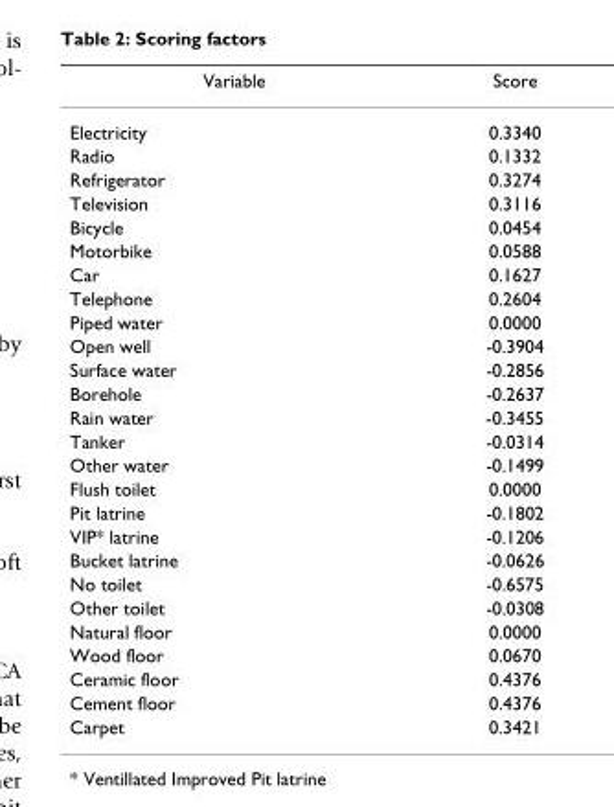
<table><thead><tr><td>Variable</td><td>Score</td></tr></thead><tbody><tr><td>Electricity</td><td>0.3340</td></tr><tr><td>Radio</td><td>0.1332</td></tr><tr><td>Refrigerator</td><td>0.3274</td></tr><tr><td>Television</td><td>0.3116</td></tr><tr><td>Bicycle</td><td>0.0454</td></tr><tr><td>Motorbike</td><td>0.0588</td></tr><tr><td>Car</td><td>0.1627</td></tr><tr><td>Telephone</td><td>0.2604</td></tr><tr><td>Piped water</td><td>0.0000</td></tr><tr><td>Open well</td><td>-0.3904</td></tr><tr><td>Surface water</td><td>-0.2856</td></tr><tr><td>Borehole</td><td>-0.2637</td></tr><tr><td>Rain water</td><td>-0.3455</td></tr><tr><td>Tanker</td><td>-0.0314</td></tr><tr><td>Other water</td><td>-0.1499</td></tr><tr><td>Flush toilet</td><td>0.0000</td></tr><tr><td>Pit latrine</td><td>-0.1802</td></tr><tr><td>VIP* latrine</td><td>-0.1206</td></tr><tr><td>Bucket latrine</td><td>-0.0626</td></tr><tr><td>No toilet</td><td>-0.6575</td></tr><tr><td>Other toilet</td><td>-0.0308</td></tr><tr><td>Natural floor</td><td>0.0000</td></tr><tr><td>Wood floor</td><td>0.0670</td></tr><tr><td>Ceramic floor</td><td>0.4376</td></tr><tr><td>Cement floor</td><td>0.4376</td></tr><tr><td>Carpet</td><td>0.3421</td></tr></tbody></table>